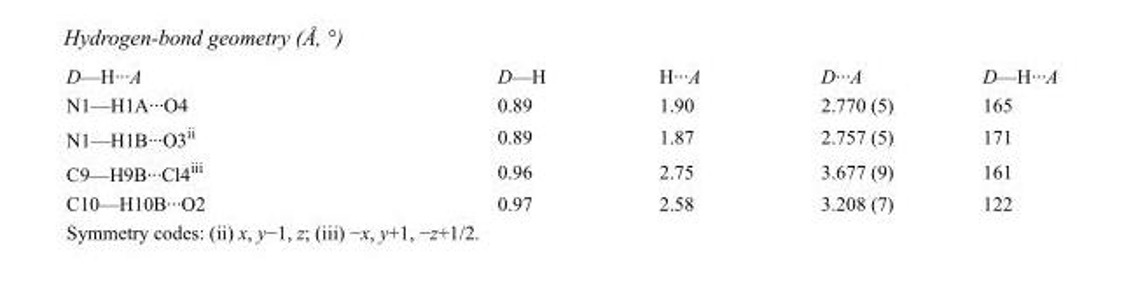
<table><tbody><tr><td>D—H···A</td><td>D—H</td><td>H···A</td><td>D···A</td><td>D—H···A</td></tr><tr><td>N1—H1A···O4</td><td>0.89</td><td>1.90</td><td>2.770 (5)</td><td>165</td></tr><tr><td>N1—H1B···O3<sup>ii</sup></td><td>0.89</td><td>1.87</td><td>2.757 (5)</td><td>171</td></tr><tr><td>C9—H9B···Cl4<sup>iii</sup></td><td>0.96</td><td>2.75</td><td>3.677 (9)</td><td>161</td></tr><tr><td>C10—H10B···O2</td><td>0.97</td><td>2.58</td><td>3.208 (7)</td><td>122</td></tr></tbody></table>